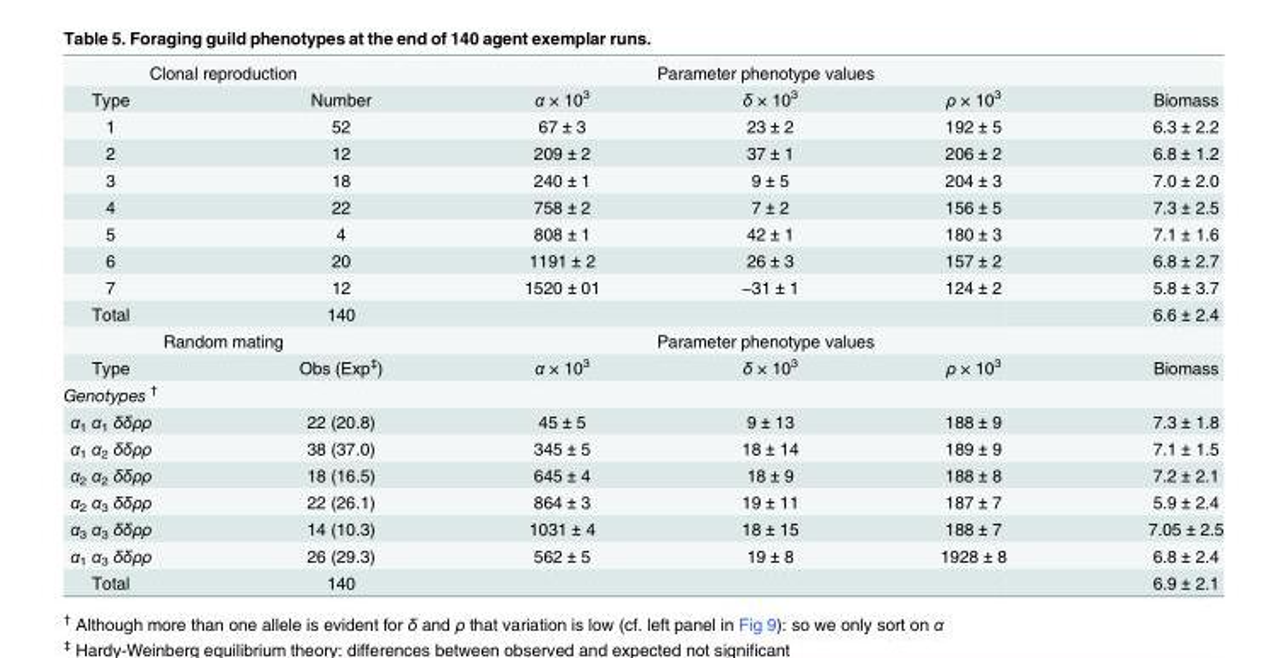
<table><tbody><tr><td colspan="2">Clonal reproduction</td><td colspan="3">Parameter phenotype values</td><td></td></tr><tr><td>Type</td><td>Number</td><td>α × 10<sup>3</sup></td><td>δ × 10<sup>3</sup></td><td>ρ × 10<sup>3</sup></td><td>Biomass</td></tr><tr><td>1</td><td>52</td><td>67 ± 3</td><td>23 ± 2</td><td>192 ± 5</td><td>6.3 ± 2.2</td></tr><tr><td>2</td><td>12</td><td>209 ± 2</td><td>37 ± 1</td><td>206 ± 2</td><td>6.8 ± 1.2</td></tr><tr><td>3</td><td>18</td><td>240 ± 1</td><td>9 ± 5</td><td>204 ± 3</td><td>7.0 ± 2.0</td></tr><tr><td>4</td><td>22</td><td>758 ± 2</td><td>7 ± 2</td><td>156 ± 5</td><td>7.3 ± 2.5</td></tr><tr><td>5</td><td>4</td><td>808 ± 1</td><td>42 ± 1</td><td>180 ± 3</td><td>7.1 ± 1.6</td></tr><tr><td>6</td><td>20</td><td>1191 ± 2</td><td>26 ± 3</td><td>157 ± 2</td><td>6.8 ± 2.7</td></tr><tr><td>7</td><td>12</td><td>1520 ± 01</td><td>−31 ± 1</td><td>124 ± 2</td><td>5.8 ± 3.7</td></tr><tr><td>Total</td><td>140</td><td></td><td></td><td></td><td>6.6 ± 2.4</td></tr><tr><td colspan="2">Random mating</td><td colspan="3">Parameter phenotype values</td><td></td></tr><tr><td>Type</td><td>Obs (Exp<sup>‡</sup>)</td><td>α × 10<sup>3</sup></td><td>δ × 10<sup>3</sup></td><td>ρ × 10<sup>3</sup></td><td>Biomass</td></tr><tr><td colspan="6">Genotypes <sup>†</sup></td></tr><tr><td>α<sub>1</sub> α<sub>1</sub> δδρρ</td><td>22 (20.8)</td><td>45 ± 5</td><td>9 ± 13</td><td>188 ± 9</td><td>7.3 ± 1.8</td></tr><tr><td>α<sub>1</sub> α<sub>2</sub> δδρρ</td><td>38 (37.0)</td><td>345 ± 5</td><td>18 ± 14</td><td>189 ± 9</td><td>7.1 ± 1.5</td></tr><tr><td>α<sub>2</sub> α<sub>2</sub> δδρρ</td><td>18 (16.5)</td><td>645 ± 4</td><td>18 ± 9</td><td>188 ± 8</td><td>7.2 ± 2.1</td></tr><tr><td>α<sub>2</sub> α<sub>3</sub> δδρρ</td><td>22 (26.1)</td><td>864 ± 3</td><td>19 ± 11</td><td>187 ± 7</td><td>5.9 ± 2.4</td></tr><tr><td>α<sub>3</sub> α<sub>3</sub> δδρρ</td><td>14 (10.3)</td><td>1031 ± 4</td><td>18 ± 15</td><td>188 ± 7</td><td>7.05 ± 2.5</td></tr><tr><td>α<sub>1</sub> α<sub>3</sub> δδρρ</td><td>26 (29.3)</td><td>562 ± 5</td><td>19 ± 8</td><td>1928 ± 8</td><td>6.8 ± 2.4</td></tr><tr><td>Total</td><td>140</td><td></td><td></td><td></td><td>6.9 ± 2.1</td></tr></tbody></table>